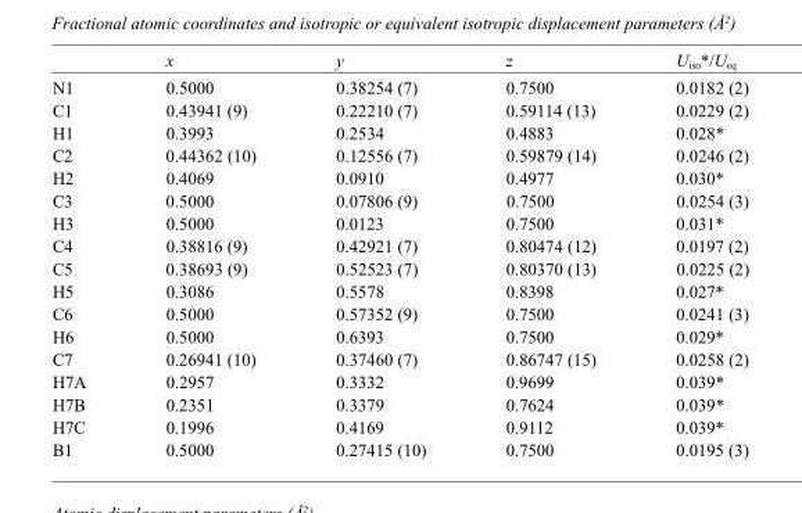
<table><thead><tr><td></td><td>x</td><td>y</td><td>z</td><td>U<sub>iso</sub>*/U<sub>eq</sub></td></tr></thead><tbody><tr><td>N1</td><td>0.5000</td><td>0.38254 (7)</td><td>0.7500</td><td>0.0182 (2)</td></tr><tr><td>C1</td><td>0.43941 (9)</td><td>0.22210 (7)</td><td>0.59114 (13)</td><td>0.0229 (2)</td></tr><tr><td>H1</td><td>0.3993</td><td>0.2534</td><td>0.4883</td><td>0.028*</td></tr><tr><td>C2</td><td>0.44362 (10)</td><td>0.12556 (7)</td><td>0.59879 (14)</td><td>0.0246 (2)</td></tr><tr><td>H2</td><td>0.4069</td><td>0.0910</td><td>0.4977</td><td>0.030*</td></tr><tr><td>C3</td><td>0.5000</td><td>0.07806 (9)</td><td>0.7500</td><td>0.0254 (3)</td></tr><tr><td>H3</td><td>0.5000</td><td>0.0123</td><td>0.7500</td><td>0.031*</td></tr><tr><td>C4</td><td>0.38816 (9)</td><td>0.42921 (7)</td><td>0.80474 (12)</td><td>0.0197 (2)</td></tr><tr><td>C5</td><td>0.38693 (9)</td><td>0.52523 (7)</td><td>0.80370 (13)</td><td>0.0225 (2)</td></tr><tr><td>H5</td><td>0.3086</td><td>0.5578</td><td>0.8398</td><td>0.027*</td></tr><tr><td>C6</td><td>0.5000</td><td>0.57352 (9)</td><td>0.7500</td><td>0.0241 (3)</td></tr><tr><td>H6</td><td>0.5000</td><td>0.6393</td><td>0.7500</td><td>0.029*</td></tr><tr><td>C7</td><td>0.26941 (10)</td><td>0.37460 (7)</td><td>0.86747 (15)</td><td>0.0258 (2)</td></tr><tr><td>H7A</td><td>0.2957</td><td>0.3332</td><td>0.9699</td><td>0.039*</td></tr><tr><td>H7B</td><td>0.2351</td><td>0.3379</td><td>0.7624</td><td>0.039*</td></tr><tr><td>H7C</td><td>0.1996</td><td>0.4169</td><td>0.9112</td><td>0.039*</td></tr><tr><td>B1</td><td>0.5000</td><td>0.27415 (10)</td><td>0.7500</td><td>0.0195 (3)</td></tr></tbody></table>